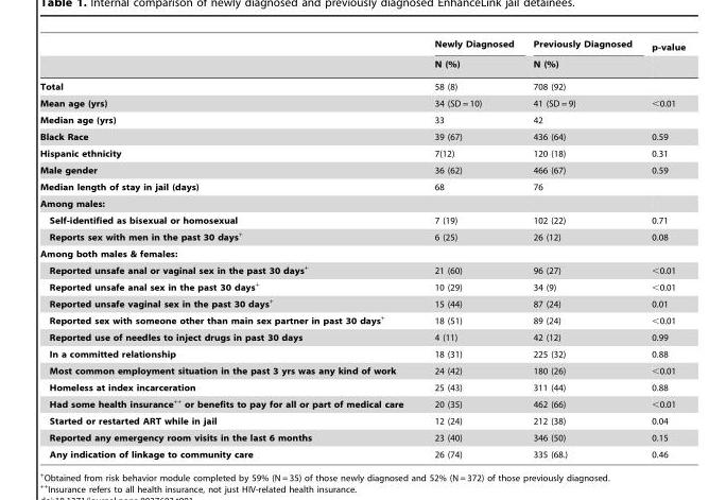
<table><thead><tr><td rowspan="2"></td><td rowspan="2">Newly Diagnosed N (%)</td><td rowspan="2">Previously Diagnosed N (%)</td><td rowspan="2">p-value</td></tr><tr></tr></thead><tbody><tr><td>Total</td><td>58 (8)</td><td>708 (92)</td><td></td></tr><tr><td>Mean age (yrs)</td><td>34 (SD = 10)</td><td>41 (SD = 9)</td><td>&lt;0.01</td></tr><tr><td>Median age (yrs)</td><td>33</td><td>42</td><td></td></tr><tr><td>Black Race</td><td>39 (67)</td><td>436 (64)</td><td>0.59</td></tr><tr><td>Hispanic ethnicity</td><td>7(12)</td><td>120 (18)</td><td>0.31</td></tr><tr><td>Male gender</td><td>36 (62)</td><td>466 (67)</td><td>0.59</td></tr><tr><td>Median length of stay in jail (days)</td><td>68</td><td>76</td><td></td></tr><tr><td colspan="4">Among males:</td></tr><tr><td>Self-identified as bisexual or homosexual</td><td>7 (19)</td><td>102 (22)</td><td>0.71</td></tr><tr><td>Reports sex with men in the past 30 days+</td><td>6 (25)</td><td>26 (12)</td><td>0.08</td></tr><tr><td colspan="4">Among both males &amp; females:</td></tr><tr><td>Reported unsafe anal or vaginal sex in the past 30 days+</td><td>21 (60)</td><td>96 (27)</td><td>&lt;0.01</td></tr><tr><td>Reported unsafe anal sex in the past 30 days+</td><td>10 (29)</td><td>34 (9)</td><td>&lt;0.01</td></tr><tr><td>Reported unsafe vaginal sex in the past 30 days+</td><td>15 (44)</td><td>87 (24)</td><td>0.01</td></tr><tr><td>Reported sex with someone other than main sex partner in past 30 days+</td><td>18 (51)</td><td>89 (24)</td><td>&lt;0.01</td></tr><tr><td>Reported use of needles to inject drugs in past 30 days</td><td>4 (11)</td><td>42 (12)</td><td>0.99</td></tr><tr><td>In a committed relationship</td><td>18 (31)</td><td>225 (32)</td><td>0.88</td></tr><tr><td>Most common employment situation in the past 3 yrs was any kind of work</td><td>24 (42)</td><td>180 (26)</td><td>&lt;0.01</td></tr><tr><td>Homeless at index incarceration</td><td>25 (43)</td><td>311 (44)</td><td>0.88</td></tr><tr><td>Had some health insurance++ or benefits to pay for all or part of medical care</td><td>20 (35)</td><td>462 (66)</td><td>&lt;0.01</td></tr><tr><td>Started or restarted ART while in jail</td><td>12 (24)</td><td>212 (38)</td><td>0.04</td></tr><tr><td>Reported any emergency room visits in the last 6 months</td><td>23 (40)</td><td>346 (50)</td><td>0.15</td></tr><tr><td>Any indication of linkage to community care</td><td>26 (74)</td><td>335 (68.)</td><td>0.46</td></tr></tbody></table>